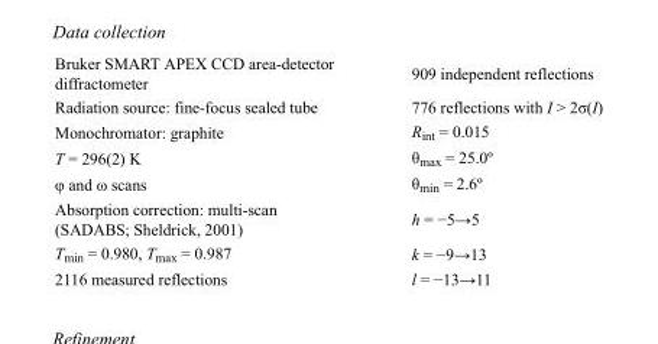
<table><tbody><tr><td>Bruker SMART APEX CCD area-detector diffractometer</td><td>909 independent reflections</td></tr><tr><td>Radiation source: fine-focus sealed tube</td><td>776 reflections with I &gt; 2σ(I)</td></tr><tr><td>Monochromator: graphite</td><td>R<sub>int</sub> = 0.015</td></tr><tr><td>T = 296(2) K</td><td>θ<sub>max</sub> = 25.0º</td></tr><tr><td>φ and ω scans</td><td>θ<sub>min</sub> = 2.6º</td></tr><tr><td>Absorption correction: multi-scan (SADABS; Sheldrick, 2001)</td><td>h = −5→5</td></tr><tr><td>T<sub>min</sub> = 0.980, T<sub>max</sub> = 0.987</td><td>k = −9→13</td></tr><tr><td>2116 measured reflections</td><td>l = −13→11</td></tr></tbody></table>